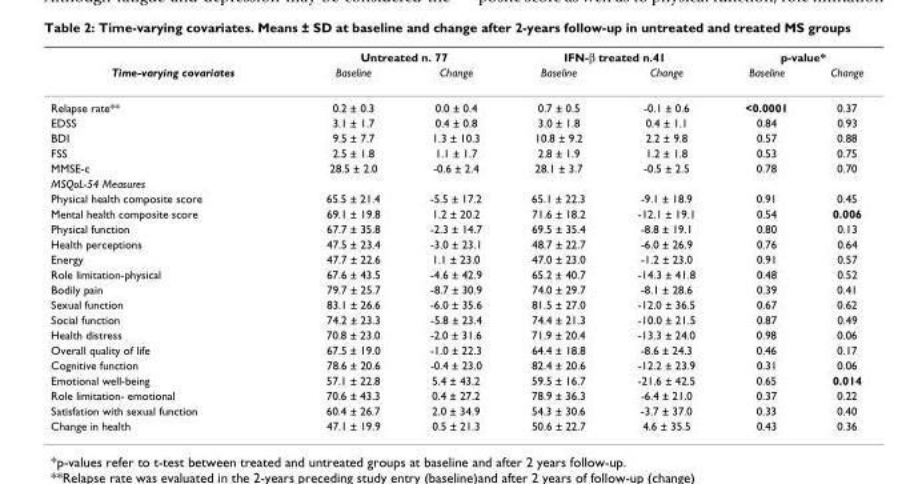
<table><thead><tr><td rowspan="2">Time-varying covariates</td><td colspan="2">Untreated n. 77</td><td colspan="2">IFN-β treated n.41</td><td colspan="2">p-value*</td></tr><tr><td>Baseline</td><td>Change</td><td>Baseline</td><td>Change</td><td>Baseline</td><td>Change</td></tr></thead><tbody><tr><td>Relapse rate**</td><td>0.2 ± 0.3</td><td>0.0 ± 0.4</td><td>0.7 ± 0.5</td><td>-0.1 ± 0.6</td><td>&lt;0.0001</td><td>0.37</td></tr><tr><td>EDSS</td><td>3.1 ± 1.7</td><td>0.4 ± 0.8</td><td>3.0 ± 1.8</td><td>0.4 ± 1.1</td><td>0.84</td><td>0.93</td></tr><tr><td>BDI</td><td>9.5 ± 7.7</td><td>1.3 ± 10.3</td><td>10.8 ± 9.2</td><td>2.2 ± 9.8</td><td>0.57</td><td>0.88</td></tr><tr><td>FSS</td><td>2.5 ± 1.8</td><td>1.1 ± 1.7</td><td>2.8 ± 1.9</td><td>1.2 ± 1.8</td><td>0.53</td><td>0.75</td></tr><tr><td>MMSE-c</td><td>28.5 ± 2.0</td><td>-0.6 ± 2.4</td><td>28.1 ± 3.7</td><td>-0.5 ± 2.5</td><td>0.78</td><td>0.70</td></tr><tr><td colspan="7">MSQoL-54 Measures</td></tr><tr><td>Physical health composite score</td><td>65.5 ± 21.4</td><td>-5.5 ± 17.2</td><td>65.1 ± 22.3</td><td>-9.1 ± 18.9</td><td>0.91</td><td>0.45</td></tr><tr><td>Mental health composite score</td><td>69.1 ± 19.8</td><td>1.2 ± 20.2</td><td>71.6 ± 18.2</td><td>-12.1 ± 19.1</td><td>0.54</td><td>0.006</td></tr><tr><td>Physical function</td><td>67.7 ± 35.8</td><td>-2.3 ± 14.7</td><td>69.5 ± 35.4</td><td>-8.8 ± 19.1</td><td>0.80</td><td>0.13</td></tr><tr><td>Health perceptions</td><td>47.5 ± 23.4</td><td>-3.0 ± 23.1</td><td>48.7 ± 22.7</td><td>-6.0 ± 26.9</td><td>0.76</td><td>0.64</td></tr><tr><td>Energy</td><td>47.7 ± 22.6</td><td>1.1 ± 23.0</td><td>47.0 ± 23.0</td><td>-1.2 ± 23.0</td><td>0.91</td><td>0.57</td></tr><tr><td>Role limitation-physical</td><td>67.6 ± 43.5</td><td>-4.6 ± 42.9</td><td>65.2 ± 40.7</td><td>-14.3 ± 41.8</td><td>0.48</td><td>0.52</td></tr><tr><td>Bodily pain</td><td>79.7 ± 25.7</td><td>-8.7 ± 30.9</td><td>74.0 ± 29.7</td><td>-8.1 ± 28.6</td><td>0.39</td><td>0.41</td></tr><tr><td>Sexual function</td><td>83.1 ± 26.6</td><td>-6.0 ± 35.6</td><td>81.5 ± 27.0</td><td>-12.0 ± 36.5</td><td>0.67</td><td>0.62</td></tr><tr><td>Social function</td><td>74.2 ± 23.3</td><td>-5.8 ± 23.4</td><td>74.4 ± 21.3</td><td>-10.0 ± 21.5</td><td>0.87</td><td>0.49</td></tr><tr><td>Health distress</td><td>70.8 ± 23.0</td><td>-2.0 ± 31.6</td><td>71.9 ± 20.4</td><td>-13.3 ± 24.0</td><td>0.98</td><td>0.06</td></tr><tr><td>Overall quality of life</td><td>67.5 ± 19.0</td><td>-1.0 ± 22.3</td><td>64.4 ± 18.8</td><td>-8.6 ± 24.3</td><td>0.46</td><td>0.17</td></tr><tr><td>Cognitive function</td><td>78.6 ± 20.6</td><td>-0.4 ± 23.0</td><td>82.4 ± 20.6</td><td>-12.2 ± 23.9</td><td>0.31</td><td>0.06</td></tr><tr><td>Emotional well-being</td><td>57.1 ± 22.8</td><td>5.4 ± 43.2</td><td>59.5 ± 16.7</td><td>-21.6 ± 42.5</td><td>0.65</td><td>0.014</td></tr><tr><td>Role limitation- emotional</td><td>70.6 ± 43.3</td><td>0.4 ± 27.2</td><td>78.9 ± 36.3</td><td>-6.4 ± 21.0</td><td>0.37</td><td>0.22</td></tr><tr><td>Satisfation with sexual function</td><td>60.4 ± 26.7</td><td>2.0 ± 34.9</td><td>54.3 ± 30.6</td><td>-3.7 ± 37.0</td><td>0.33</td><td>0.40</td></tr><tr><td>Change in health</td><td>47.1 ± 19.9</td><td>0.5 ± 21.3</td><td>50.6 ± 22.7</td><td>4.6 ± 35.5</td><td>0.43</td><td>0.36</td></tr></tbody></table>